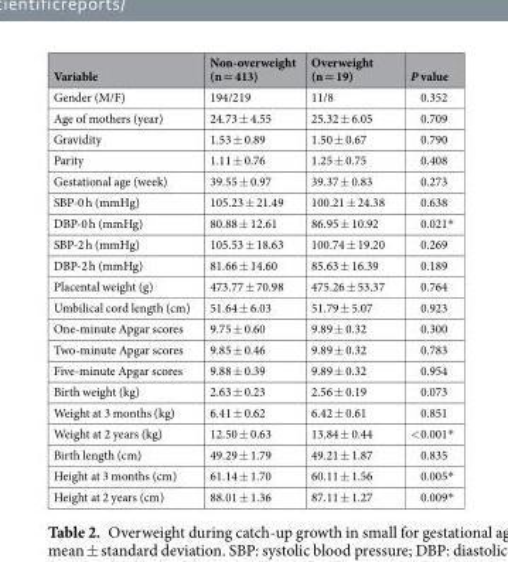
<table><thead><tr><td>Variable</td><td>Non-overweight (n = 413)</td><td>Overweight (n = 19)</td><td>P value</td></tr></thead><tbody><tr><td>Gender (M/F)</td><td>194/219</td><td>11/8</td><td>0.352</td></tr><tr><td>Age of mothers (year)</td><td>24.73 ± 4.55</td><td>25.32 ± 6.05</td><td>0.709</td></tr><tr><td>Gravidity</td><td>1.53 ± 0.89</td><td>1.50 ± 0.67</td><td>0.790</td></tr><tr><td>Parity</td><td>1.11 ± 0.76</td><td>1.25 ± 0.75</td><td>0.408</td></tr><tr><td>Gestational age (week)</td><td>39.55 ± 0.97</td><td>39.37 ± 0.83</td><td>0.273</td></tr><tr><td>SBP-0 h (mmHg)</td><td>105.23 ± 21.49</td><td>100.21 ± 24.38</td><td>0.638</td></tr><tr><td>DBP-0 h (mmHg)</td><td>80.88 ± 12.61</td><td>86.95 ± 10.92</td><td>0.021*</td></tr><tr><td>SBP-2 h (mmHg)</td><td>105.53 ± 18.63</td><td>100.74 ± 19.20</td><td>0.269</td></tr><tr><td>DBP-2 h (mmHg)</td><td>81.66 ± 14.60</td><td>85.63 ± 16.39</td><td>0.189</td></tr><tr><td>Placental weight (g)</td><td>473.77 ± 70.98</td><td>475.26 ± 53.37</td><td>0.764</td></tr><tr><td>Umbilical cord length (cm)</td><td>51.64 ± 6.03</td><td>51.79 ± 5.07</td><td>0.923</td></tr><tr><td>One-minute Apgar scores</td><td>9.75 ± 0.60</td><td>9.89 ± 0.32</td><td>0.300</td></tr><tr><td>Two-minute Apgar scores</td><td>9.85 ± 0.46</td><td>9.89 ± 0.32</td><td>0.783</td></tr><tr><td>Five-minute Apgar scores</td><td>9.88 ± 0.39</td><td>9.89 ± 0.32</td><td>0.954</td></tr><tr><td>Birth weight (kg)</td><td>2.63 ± 0.23</td><td>2.56 ± 0.19</td><td>0.073</td></tr><tr><td>Weight at 3 months (kg)</td><td>6.41 ± 0.62</td><td>6.42 ± 0.61</td><td>0.851</td></tr><tr><td>Weight at 2 years (kg)</td><td>12.50 ± 0.63</td><td>13.84 ± 0.44</td><td>&lt;0.001*</td></tr><tr><td>Birth length (cm)</td><td>49.29 ± 1.79</td><td>49.21 ± 1.87</td><td>0.835</td></tr><tr><td>Height at 3 months (cm)</td><td>61.14 ± 1.70</td><td>60.11 ± 1.56</td><td>0.005*</td></tr><tr><td>Height at 2 years (cm)</td><td>88.01 ± 1.36</td><td>87.11 ± 1.27</td><td>0.009*</td></tr></tbody></table>